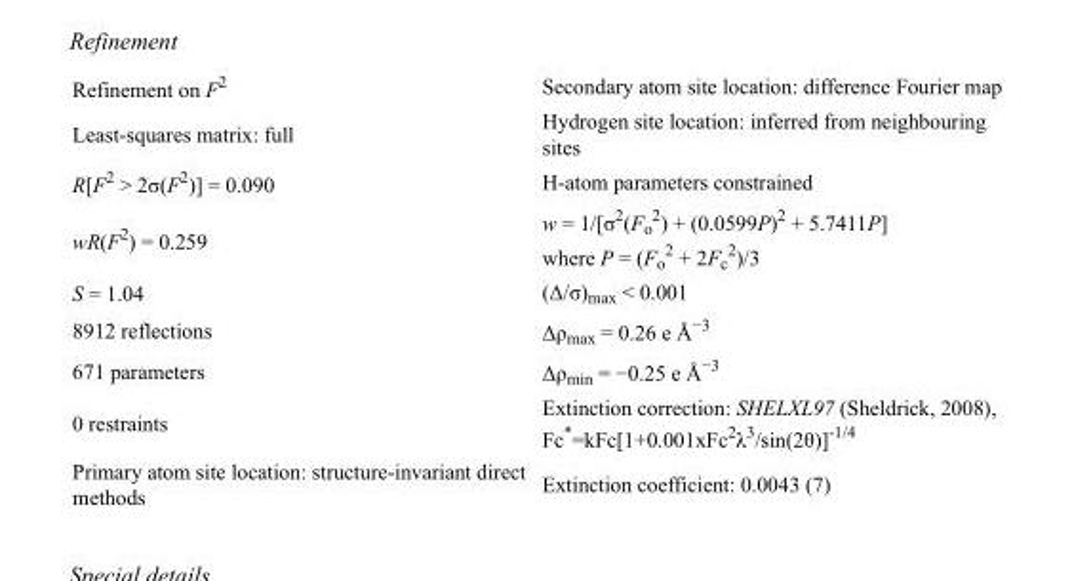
<table><tbody><tr><td>Refinement on F<sup>2</sup></td><td>Secondary atom site location: difference Fourier map</td></tr><tr><td>Least-squares matrix: full</td><td>Hydrogen site location: inferred from neighbouring sites</td></tr><tr><td>R[F<sup>2</sup> &gt; 2σ(F<sup>2</sup>)] = 0.090</td><td>H-atom parameters constrained</td></tr><tr><td>wR(F<sup>2</sup>) = 0.259</td><td>w = 1/[σ<sup>2</sup>(F<sub>o</sub> <sup>2</sup>) + (0.0599P)<sup>2</sup> + 5.7411P] where P = (F<sub>o</sub> <sup>2</sup> + 2F<sub>c</sub> <sup>2</sup>)/3</td></tr><tr><td>S = 1.04</td><td>(Δ/σ)<sub>max</sub> &lt; 0.001</td></tr><tr><td>8912 reflections</td><td>Δρ<sub>max</sub> = 0.26 e Å<sup>−3</sup></td></tr><tr><td>671 parameters</td><td>Δρ<sub>min</sub> = −0.25 e Å<sup>−3</sup></td></tr><tr><td>0 restraints</td><td>Extinction correction: SHELXL97 (Sheldrick, 2008), Fc*=kFc[1+0.001xFc<sup>2</sup>λ<sup>3</sup>/sin(2θ)]<sup>-1/4</sup></td></tr><tr><td>Primary atom site location: structure-invariant direct methods</td><td>Extinction coefficient: 0.0043 (7)</td></tr></tbody></table>